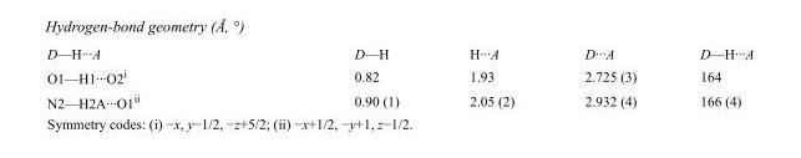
<table><tbody><tr><td>D—H···A</td><td>D—H</td><td>H···A</td><td>D···A</td><td>D—H···A</td></tr><tr><td>O1—H1···O2<sup>i</sup></td><td>0.82</td><td>1.93</td><td>2.725 (3)</td><td>164</td></tr><tr><td>N2—H2A···O1<sup>ii</sup></td><td>0.90 (1)</td><td>2.05 (2)</td><td>2.932 (4)</td><td>166 (4)</td></tr></tbody></table>